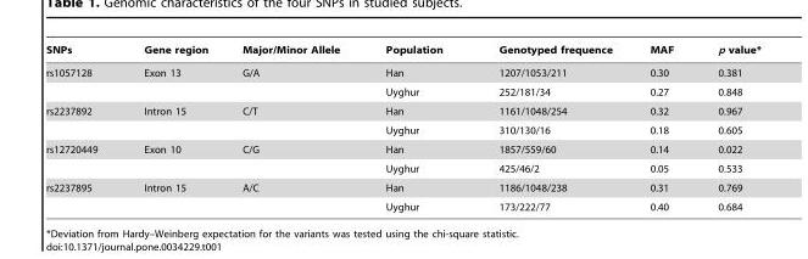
<table><thead><tr><td>SNPs</td><td>Gene region</td><td>Major/Minor Allele</td><td>Population</td><td>Genotyped frequence</td><td>MAF</td><td>p value*</td></tr></thead><tbody><tr><td rowspan="2">rs1057128</td><td>Exon 13</td><td>G/A</td><td>Han</td><td>1207/1053/211</td><td>0.30</td><td>0.381</td></tr><tr><td></td><td></td><td>Uyghur</td><td>252/181/34</td><td>0.27</td><td>0.848</td></tr><tr><td rowspan="2">rs2237892</td><td>Intron 15</td><td>C/T</td><td>Han</td><td>1161/1048/254</td><td>0.32</td><td>0.967</td></tr><tr><td></td><td></td><td>Uyghur</td><td>310/130/16</td><td>0.18</td><td>0.605</td></tr><tr><td rowspan="2">rs12720449</td><td>Exon 10</td><td>C/G</td><td>Han</td><td>1857/559/60</td><td>0.14</td><td>0.022</td></tr><tr><td></td><td></td><td>Uyghur</td><td>425/46/2</td><td>0.05</td><td>0.533</td></tr><tr><td rowspan="2">rs2237895</td><td>Intron 15</td><td>A/C</td><td>Han</td><td>1186/1048/238</td><td>0.31</td><td>0.769</td></tr><tr><td></td><td></td><td>Uyghur</td><td>173/222/77</td><td>0.40</td><td>0.684</td></tr></tbody></table>